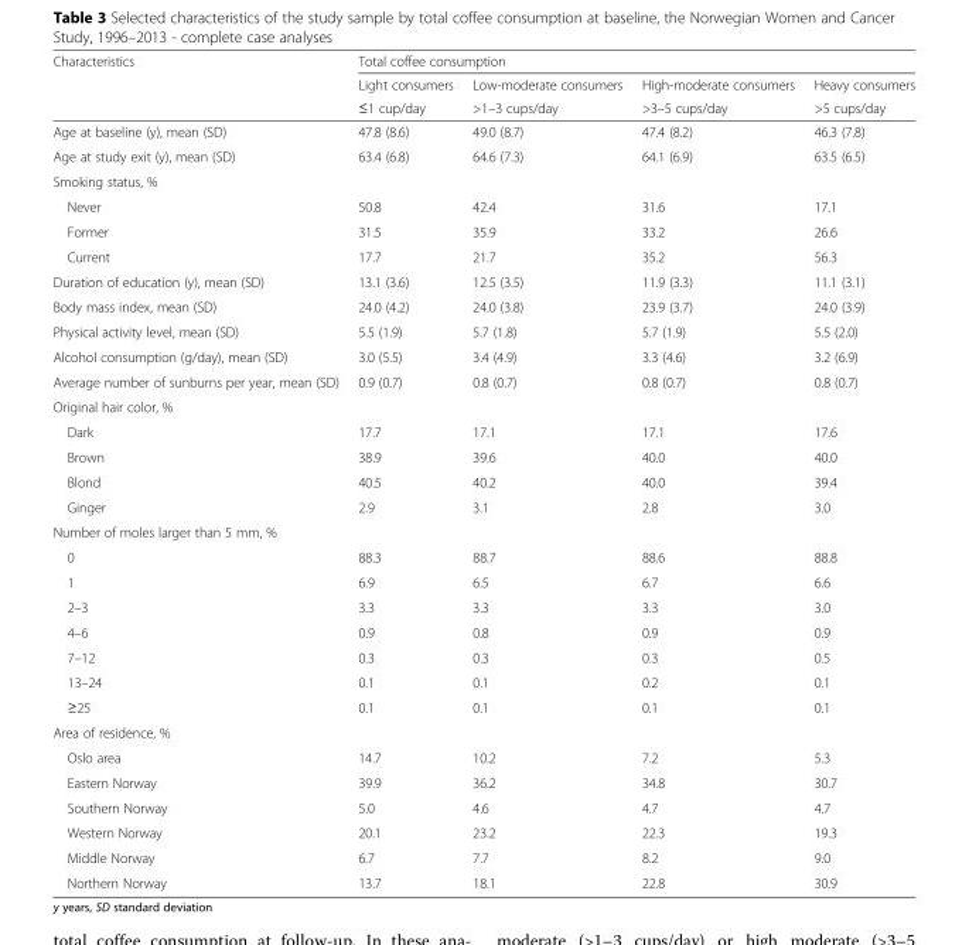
<table><thead><tr><td rowspan="3">Characteristics</td><td colspan="4">Total coffee consumption</td></tr><tr><td rowspan="2">Light consumers ≤1 cup/day</td><td rowspan="2">Low-moderate consumers &gt;1–3 cups/day</td><td rowspan="2">High-moderate consumers &gt;3–5 cups/day</td><td rowspan="2">Heavy consumers &gt;5 cups/day</td></tr><tr></tr></thead><tbody><tr><td>Age at baseline (y), mean (SD)</td><td>47.8 (8.6)</td><td>49.0 (8.7)</td><td>47.4 (8.2)</td><td>46.3 (7.8)</td></tr><tr><td>Age at study exit (y), mean (SD)</td><td>63.4 (6.8)</td><td>64.6 (7.3)</td><td>64.1 (6.9)</td><td>63.5 (6.5)</td></tr><tr><td colspan="5">Smoking status, %</td></tr><tr><td>Never</td><td>50.8</td><td>42.4</td><td>31.6</td><td>17.1</td></tr><tr><td>Former</td><td>31.5</td><td>35.9</td><td>33.2</td><td>26.6</td></tr><tr><td>Current</td><td>17.7</td><td>21.7</td><td>35.2</td><td>56.3</td></tr><tr><td>Duration of education (y), mean (SD)</td><td>13.1 (3.6)</td><td>12.5 (3.5)</td><td>11.9 (3.3)</td><td>11.1 (3.1)</td></tr><tr><td>Body mass index, mean (SD)</td><td>24.0 (4.2)</td><td>24.0 (3.8)</td><td>23.9 (3.7)</td><td>24.0 (3.9)</td></tr><tr><td>Physical activity level, mean (SD)</td><td>5.5 (1.9)</td><td>5.7 (1.8)</td><td>5.7 (1.9)</td><td>5.5 (2.0)</td></tr><tr><td>Alcohol consumption (g/day), mean (SD)</td><td>3.0 (5.5)</td><td>3.4 (4.9)</td><td>3.3 (4.6)</td><td>3.2 (6.9)</td></tr><tr><td>Average number of sunburns per year, mean (SD)</td><td>0.9 (0.7)</td><td>0.8 (0.7)</td><td>0.8 (0.7)</td><td>0.8 (0.7)</td></tr><tr><td colspan="5">Original hair color, %</td></tr><tr><td>Dark</td><td>17.7</td><td>17.1</td><td>17.1</td><td>17.6</td></tr><tr><td>Brown</td><td>38.9</td><td>39.6</td><td>40.0</td><td>40.0</td></tr><tr><td>Blond</td><td>40.5</td><td>40.2</td><td>40.0</td><td>39.4</td></tr><tr><td>Ginger</td><td>2.9</td><td>3.1</td><td>2.8</td><td>3.0</td></tr><tr><td colspan="5">Number of moles larger than 5 mm, %</td></tr><tr><td>0</td><td>88.3</td><td>88.7</td><td>88.6</td><td>88.8</td></tr><tr><td>1</td><td>6.9</td><td>6.5</td><td>6.7</td><td>6.6</td></tr><tr><td>2–3</td><td>3.3</td><td>3.3</td><td>3.3</td><td>3.0</td></tr><tr><td>4–6</td><td>0.9</td><td>0.8</td><td>0.9</td><td>0.9</td></tr><tr><td>7–12</td><td>0.3</td><td>0.3</td><td>0.3</td><td>0.5</td></tr><tr><td>13–24</td><td>0.1</td><td>0.1</td><td>0.2</td><td>0.1</td></tr><tr><td>≥25</td><td>0.1</td><td>0.1</td><td>0.1</td><td>0.1</td></tr><tr><td colspan="5">Area of residence, %</td></tr><tr><td>Oslo area</td><td>14.7</td><td>10.2</td><td>7.2</td><td>5.3</td></tr><tr><td>Eastern Norway</td><td>39.9</td><td>36.2</td><td>34.8</td><td>30.7</td></tr><tr><td>Southern Norway</td><td>5.0</td><td>4.6</td><td>4.7</td><td>4.7</td></tr><tr><td>Western Norway</td><td>20.1</td><td>23.2</td><td>22.3</td><td>19.3</td></tr><tr><td>Middle Norway</td><td>6.7</td><td>7.7</td><td>8.2</td><td>9.0</td></tr><tr><td>Northern Norway</td><td>13.7</td><td>18.1</td><td>22.8</td><td>30.9</td></tr></tbody></table>